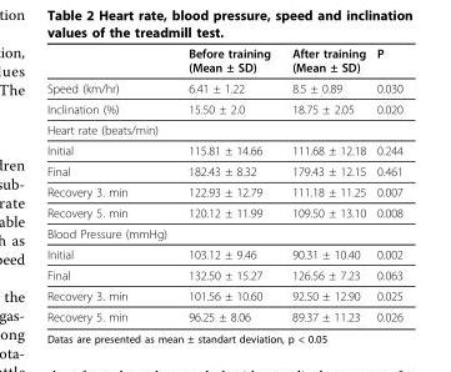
<table><thead><tr><td></td><td>Before training (Mean ± SD)</td><td>After training (Mean ± SD)</td><td>P</td></tr></thead><tbody><tr><td>Speed (km/hr)</td><td>6.41 ± 1.22</td><td>8.5 ± 0.89</td><td>0.030</td></tr><tr><td>Inclination (%)</td><td>15.50 ± 2.0</td><td>18.75 ± 2.05</td><td>0.020</td></tr><tr><td colspan="4">Heart rate (beats/min)</td></tr><tr><td>Initial</td><td>115.81 ± 14.66</td><td>111.68 ± 12.18</td><td>0.244</td></tr><tr><td>Final</td><td>182.43 ± 8.32</td><td>179.43 ± 12.15</td><td>0.461</td></tr><tr><td>Recovery 3. min</td><td>122.93 ± 12.79</td><td>111.18 ± 11.25</td><td>0.007</td></tr><tr><td>Recovery 5. min</td><td>120.12 ± 11.99</td><td>109.50 ± 13.10</td><td>0.008</td></tr><tr><td colspan="4">Blood Pressure (mmHg)</td></tr><tr><td>Initial</td><td>103.12 ± 9.46</td><td>90.31 ± 10.40</td><td>0.002</td></tr><tr><td>Final</td><td>132.50 ± 15.27</td><td>126.56 ± 7.23</td><td>0.063</td></tr><tr><td>Recovery 3. min</td><td>101.56 ± 10.60</td><td>92.50 ± 12.90</td><td>0.025</td></tr><tr><td>Recovery 5. min</td><td>96.25 ± 8.06</td><td>89.37 ± 11.23</td><td>0.026</td></tr></tbody></table>